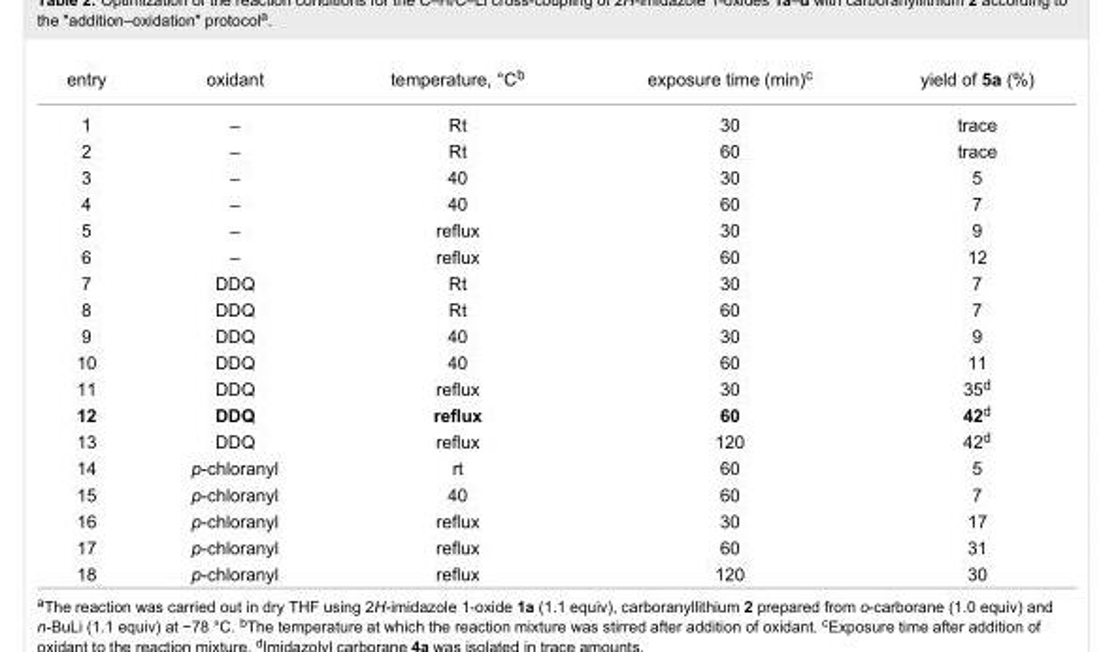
<table><tbody><tr><td>entry</td><td>oxidant</td><td>temperature, °C<sup>b</sup></td><td>exposure time (min)<sup>c</sup></td><td>yield of 5a (%)</td></tr><tr><td>1</td><td>–</td><td>Rt</td><td>30</td><td>trace</td></tr><tr><td>2</td><td>–</td><td>Rt</td><td>60</td><td>trace</td></tr><tr><td>3</td><td>–</td><td>40</td><td>30</td><td>5</td></tr><tr><td>4</td><td>–</td><td>40</td><td>60</td><td>7</td></tr><tr><td>5</td><td>–</td><td>reflux</td><td>30</td><td>9</td></tr><tr><td>6</td><td>–</td><td>reflux</td><td>60</td><td>12</td></tr><tr><td>7</td><td>DDQ</td><td>Rt</td><td>30</td><td>7</td></tr><tr><td>8</td><td>DDQ</td><td>Rt</td><td>60</td><td>7</td></tr><tr><td>9</td><td>DDQ</td><td>40</td><td>30</td><td>9</td></tr><tr><td>10</td><td>DDQ</td><td>40</td><td>60</td><td>11</td></tr><tr><td>11</td><td>DDQ</td><td>reflux</td><td>30</td><td>35<sup>d</sup></td></tr><tr><td>12</td><td>DDQ</td><td>reflux</td><td>60</td><td>42<sup>d</sup></td></tr><tr><td>13</td><td>DDQ</td><td>reflux</td><td>120</td><td>42<sup>d</sup></td></tr><tr><td>14</td><td>p-chloranyl</td><td>rt</td><td>60</td><td>5</td></tr><tr><td>15</td><td>p-chloranyl</td><td>40</td><td>60</td><td>7</td></tr><tr><td>16</td><td>p-chloranyl</td><td>reflux</td><td>30</td><td>17</td></tr><tr><td>17</td><td>p-chloranyl</td><td>reflux</td><td>60</td><td>31</td></tr><tr><td>18</td><td>p-chloranyl</td><td>reflux</td><td>120</td><td>30</td></tr></tbody></table>